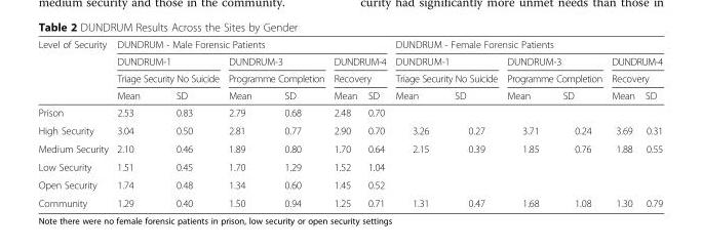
<table><thead><tr><td rowspan="4">Level of Security</td><td colspan="6">DUNDRUM - Male Forensic Patients</td><td colspan="6">DUNDRUM - Female Forensic Patients</td></tr><tr><td rowspan="2" colspan="2">DUNDRUM-1 Triage Security No Suicide</td><td rowspan="2" colspan="2">DUNDRUM-3 Programme Completion</td><td rowspan="2" colspan="2">DUNDRUM-4 Recovery</td><td rowspan="2" colspan="2">DUNDRUM-1 Triage Security No Suicide</td><td rowspan="2" colspan="2">DUNDRUM-3 Programme Completion</td><td rowspan="2" colspan="2">DUNDRUM-4 Recovery</td></tr><tr></tr><tr><td>Mean</td><td>SD</td><td>Mean</td><td>SD</td><td>Mean</td><td>SD</td><td>Mean</td><td>SD</td><td>Mean</td><td>SD</td><td>Mean</td><td>SD</td></tr></thead><tbody><tr><td>Prison</td><td>2.53</td><td>0.83</td><td>2.79</td><td>0.68</td><td>2.48</td><td>0.70</td><td></td><td></td><td></td><td></td><td></td><td></td></tr><tr><td>High Security</td><td>3.04</td><td>0.50</td><td>2.81</td><td>0.77</td><td>2.90</td><td>0.70</td><td>3.26</td><td>0.27</td><td>3.71</td><td>0.24</td><td>3.69</td><td>0.31</td></tr><tr><td>Medium Security</td><td>2.10</td><td>0.46</td><td>1.89</td><td>0.80</td><td>1.70</td><td>0.64</td><td>2.15</td><td>0.39</td><td>1.85</td><td>0.76</td><td>1.88</td><td>0.55</td></tr><tr><td>Low Security</td><td>1.51</td><td>0.45</td><td>1.70</td><td>1.29</td><td>1.52</td><td>1.04</td><td></td><td></td><td></td><td></td><td></td><td></td></tr><tr><td>Open Security</td><td>1.74</td><td>0.48</td><td>1.34</td><td>0.60</td><td>1.45</td><td>0.52</td><td></td><td></td><td></td><td></td><td></td><td></td></tr><tr><td>Community</td><td>1.29</td><td>0.40</td><td>1.50</td><td>0.94</td><td>1.25</td><td>0.71</td><td>1.31</td><td>0.47</td><td>1.68</td><td>1.08</td><td>1.30</td><td>0.79</td></tr></tbody></table>